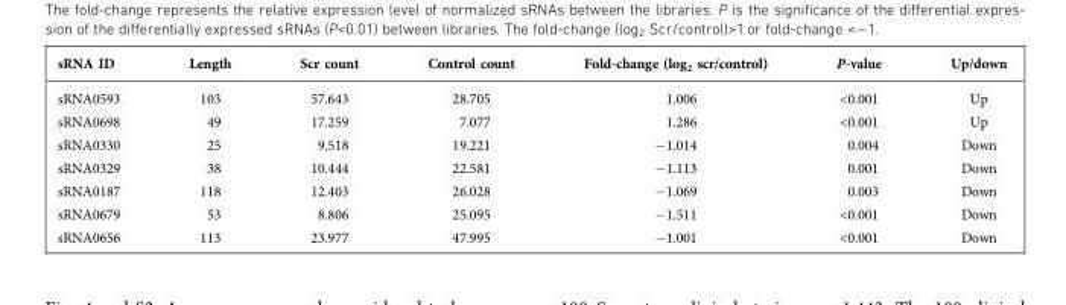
<table><thead><tr><td>sRNA ID</td><td>Length</td><td>Scr count</td><td>Control count</td><td>Fold-change (log<sub>2</sub> scr/control)</td><td>P-value</td><td>Up/down</td></tr></thead><tbody><tr><td>sRNA0593</td><td>103</td><td>57.643</td><td>28.705</td><td>1.006</td><td>&lt;0.001</td><td>Up</td></tr><tr><td>sRNA0698</td><td>49</td><td>17.259</td><td>7.077</td><td>1.286</td><td>&lt;0.001</td><td>Up</td></tr><tr><td>sRNA0330</td><td>25</td><td>9.518</td><td>19.221</td><td>−1.014</td><td>0.004</td><td>Down</td></tr><tr><td>sRNA0329</td><td>38</td><td>10.444</td><td>22.581</td><td>−1.113</td><td>0.001</td><td>Down</td></tr><tr><td>sRNA0187</td><td>118</td><td>12.403</td><td>26.028</td><td>−1.069</td><td>0.003</td><td>Down</td></tr><tr><td>sRNA0679</td><td>53</td><td>8.806</td><td>25.095</td><td>−1.511</td><td>&lt;0.001</td><td>Down</td></tr><tr><td>sRNA0656</td><td>113</td><td>23.977</td><td>47.995</td><td>−1.001</td><td>&lt;0.001</td><td>Down</td></tr></tbody></table>